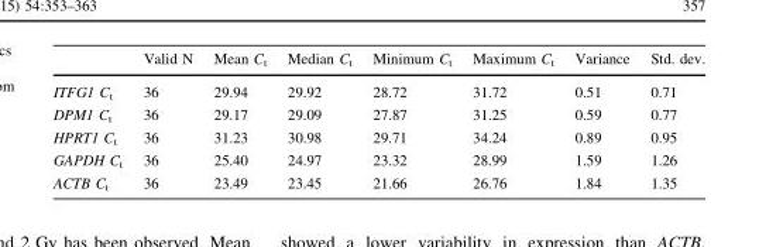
<table><thead><tr><td></td><td>Valid N</td><td>Mean C<sub>t</sub></td><td>Median C<sub>t</sub></td><td>Minimum C<sub>t</sub></td><td>Maximum C<sub>t</sub></td><td>Variance</td><td>Std. dev.</td></tr></thead><tbody><tr><td>ITFG1 C<sub>t</sub></td><td>36</td><td>29.94</td><td>29.92</td><td>28.72</td><td>31.72</td><td>0.51</td><td>0.71</td></tr><tr><td>DPM1 C<sub>t</sub></td><td>36</td><td>29.17</td><td>29.09</td><td>27.87</td><td>31.25</td><td>0.59</td><td>0.77</td></tr><tr><td>HPRT1 C<sub>t</sub></td><td>36</td><td>31.23</td><td>30.98</td><td>29.71</td><td>34.24</td><td>0.89</td><td>0.95</td></tr><tr><td>GAPDH C<sub>t</sub></td><td>36</td><td>25.40</td><td>24.97</td><td>23.32</td><td>28.99</td><td>1.59</td><td>1.26</td></tr><tr><td>ACTB C<sub>t</sub></td><td>36</td><td>23.49</td><td>23.45</td><td>21.66</td><td>26.76</td><td>1.84</td><td>1.35</td></tr></tbody></table>